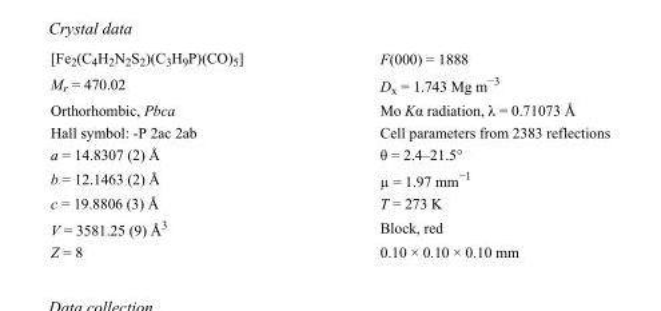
<table><tbody><tr><td>[Fe<sub>2</sub>(C<sub>4</sub>H<sub>2</sub>N<sub>2</sub>S<sub>2</sub>)(C<sub>3</sub>H<sub>9</sub>P)(CO)<sub>5</sub>]</td><td>F(000) = 1888</td></tr><tr><td>M<sub>r</sub> = 470.02</td><td>D<sub>x</sub> = 1.743 Mg m<sup>−3</sup></td></tr><tr><td>Orthorhombic, Pbca</td><td>Mo Kα radiation, λ = 0.71073 Å</td></tr><tr><td>Hall symbol: -P 2ac 2ab</td><td>Cell parameters from 2383 reflections</td></tr><tr><td>a = 14.8307 (2) Å</td><td>θ = 2.4–21.5°</td></tr><tr><td>b = 12.1463 (2) Å</td><td>µ = 1.97 mm<sup>−1</sup></td></tr><tr><td>c = 19.8806 (3) Å</td><td>T = 273 K</td></tr><tr><td>V = 3581.25 (9) Å<sup>3</sup></td><td>Block, red</td></tr><tr><td>Z = 8</td><td>0.10 × 0.10 × 0.10 mm</td></tr></tbody></table>